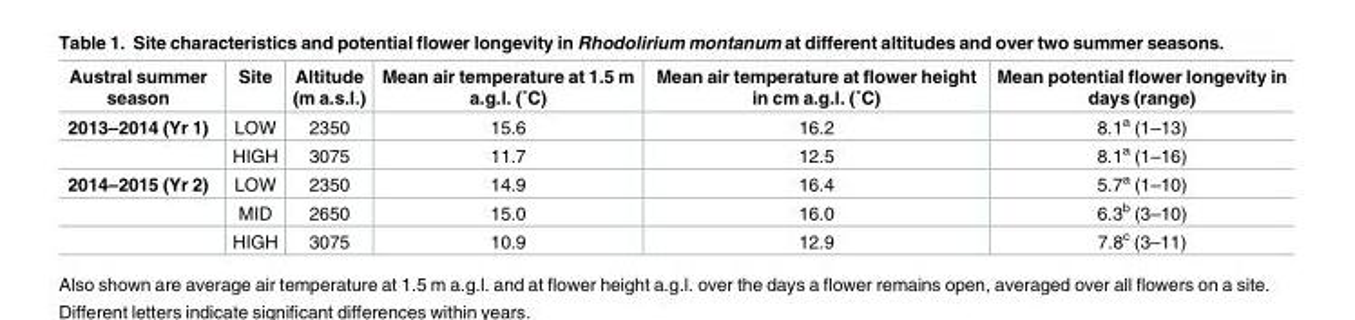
<table><thead><tr><td>Austral summer season</td><td>Site</td><td>Altitude (m a.s.l.)</td><td>Mean air temperature at 1.5 m a.g.l. (˚C)</td><td>Mean air temperature at flower height in cm a.g.l. (˚C)</td><td>Mean potential flower longevity in days (range)</td></tr></thead><tbody><tr><td rowspan="2">2013–2014 (Yr 1)</td><td>LOW</td><td>2350</td><td>15.6</td><td>16.2</td><td>8.1<sup>a</sup> (1–13)</td></tr><tr><td>HIGH</td><td>3075</td><td>11.7</td><td>12.5</td><td>8.1<sup>a</sup> (1–16)</td></tr><tr><td rowspan="3">2014–2015 (Yr 2)</td><td>LOW</td><td>2350</td><td>14.9</td><td>16.4</td><td>5.7<sup>a</sup> (1–10)</td></tr><tr><td>MID</td><td>2650</td><td>15.0</td><td>16.0</td><td>6.3<sup>b</sup> (3–10)</td></tr><tr><td>HIGH</td><td>3075</td><td>10.9</td><td>12.9</td><td>7.8<sup>c</sup> (3–11)</td></tr></tbody></table>